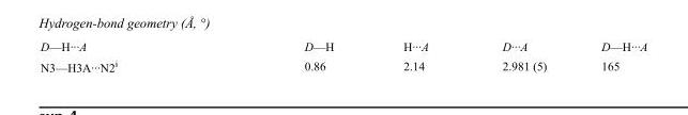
<table><tbody><tr><td>D—H···A</td><td>D—H</td><td>H···A</td><td>D···A</td><td>D—H···A</td></tr><tr><td>N3—H3A···N2<sup>i</sup></td><td>0.86</td><td>2.14</td><td>2.981 (5)</td><td>165</td></tr></tbody></table>